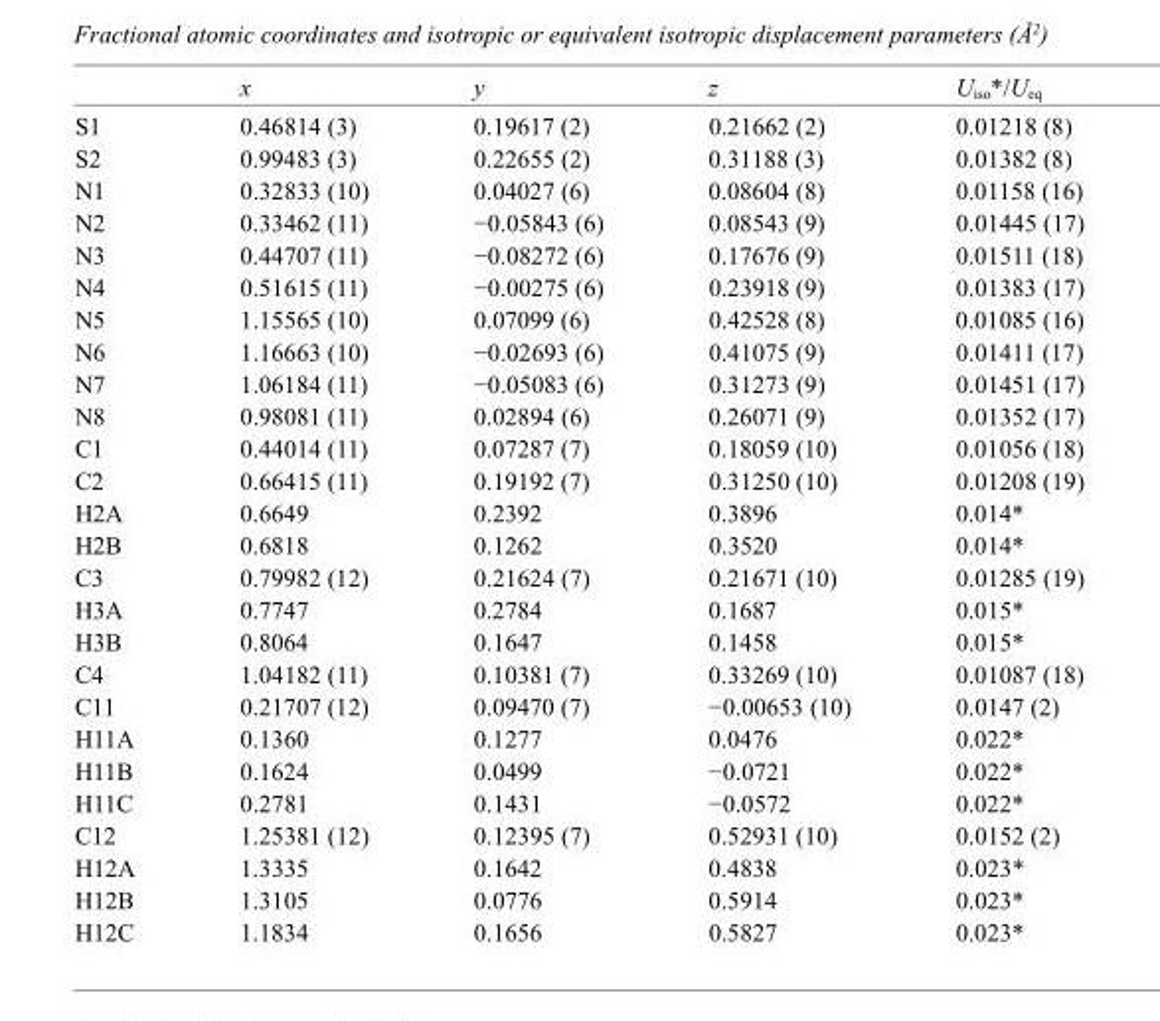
<table><thead><tr><td></td><td>x</td><td>y</td><td>z</td><td>U<sub>iso</sub>*/U<sub>eq</sub></td></tr></thead><tbody><tr><td>S1</td><td>0.46814 (3)</td><td>0.19617 (2)</td><td>0.21662 (2)</td><td>0.01218 (8)</td></tr><tr><td>S2</td><td>0.99483 (3)</td><td>0.22655 (2)</td><td>0.31188 (3)</td><td>0.01382 (8)</td></tr><tr><td>N1</td><td>0.32833 (10)</td><td>0.04027 (6)</td><td>0.08604 (8)</td><td>0.01158 (16)</td></tr><tr><td>N2</td><td>0.33462 (11)</td><td>−0.05843 (6)</td><td>0.08543 (9)</td><td>0.01445 (17)</td></tr><tr><td>N3</td><td>0.44707 (11)</td><td>−0.08272 (6)</td><td>0.17676 (9)</td><td>0.01511 (18)</td></tr><tr><td>N4</td><td>0.51615 (11)</td><td>−0.00275 (6)</td><td>0.23918 (9)</td><td>0.01383 (17)</td></tr><tr><td>N5</td><td>1.15565 (10)</td><td>0.07099 (6)</td><td>0.42528 (8)</td><td>0.01085 (16)</td></tr><tr><td>N6</td><td>1.16663 (10)</td><td>−0.02693 (6)</td><td>0.41075 (9)</td><td>0.01411 (17)</td></tr><tr><td>N7</td><td>1.06184 (11)</td><td>−0.05083 (6)</td><td>0.31273 (9)</td><td>0.01451 (17)</td></tr><tr><td>N8</td><td>0.98081 (11)</td><td>0.02894 (6)</td><td>0.26071 (9)</td><td>0.01352 (17)</td></tr><tr><td>C1</td><td>0.44014 (11)</td><td>0.07287 (7)</td><td>0.18059 (10)</td><td>0.01056 (18)</td></tr><tr><td>C2</td><td>0.66415 (11)</td><td>0.19192 (7)</td><td>0.31250 (10)</td><td>0.01208 (19)</td></tr><tr><td>H2A</td><td>0.6649</td><td>0.2392</td><td>0.3896</td><td>0.014*</td></tr><tr><td>H2B</td><td>0.6818</td><td>0.1262</td><td>0.3520</td><td>0.014*</td></tr><tr><td>C3</td><td>0.79982 (12)</td><td>0.21624 (7)</td><td>0.21671 (10)</td><td>0.01285 (19)</td></tr><tr><td>H3A</td><td>0.7747</td><td>0.2784</td><td>0.1687</td><td>0.015*</td></tr><tr><td>H3B</td><td>0.8064</td><td>0.1647</td><td>0.1458</td><td>0.015*</td></tr><tr><td>C4</td><td>1.04182 (11)</td><td>0.10381 (7)</td><td>0.33269 (10)</td><td>0.01087 (18)</td></tr><tr><td>C11</td><td>0.21707 (12)</td><td>0.09470 (7)</td><td>−0.00653 (10)</td><td>0.0147 (2)</td></tr><tr><td>H11A</td><td>0.1360</td><td>0.1277</td><td>0.0476</td><td>0.022*</td></tr><tr><td>H11B</td><td>0.1624</td><td>0.0499</td><td>−0.0721</td><td>0.022*</td></tr><tr><td>H11C</td><td>0.2781</td><td>0.1431</td><td>−0.0572</td><td>0.022*</td></tr><tr><td>C12</td><td>1.25381 (12)</td><td>0.12395 (7)</td><td>0.52931 (10)</td><td>0.0152 (2)</td></tr><tr><td>H12A</td><td>1.3335</td><td>0.1642</td><td>0.4838</td><td>0.023*</td></tr><tr><td>H12B</td><td>1.3105</td><td>0.0776</td><td>0.5914</td><td>0.023*</td></tr><tr><td>H12C</td><td>1.1834</td><td>0.1656</td><td>0.5827</td><td>0.023*</td></tr></tbody></table>